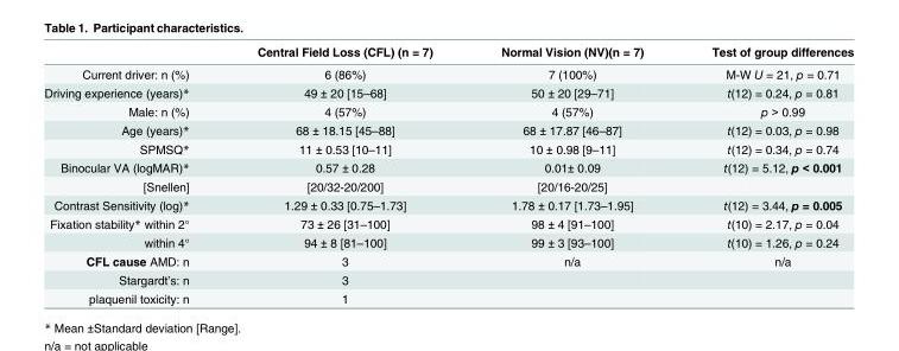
<table><thead><tr><td></td><td>Central Field Loss (CFL) (n = 7)</td><td>Normal Vision (NV)(n = 7)</td><td>Test of group differences</td></tr></thead><tbody><tr><td>Current driver: n (%)</td><td>6 (86%)</td><td>7 (100%)</td><td>M-W U = 21, p = 0.71</td></tr><tr><td>Driving experience (years)*</td><td>49 ± 20 [15–68]</td><td>50 ± 20 [29–71]</td><td>t(12) = 0.24, p = 0.81</td></tr><tr><td>Male: n (%)</td><td>4 (57%)</td><td>4 (57%)</td><td>p &gt; 0.99</td></tr><tr><td>Age (years)*</td><td>68 ± 18.15 [45–88]</td><td>68 ± 17.87 [46–87]</td><td>t(12) = 0.03, p = 0.98</td></tr><tr><td>SPMSQ*</td><td>11 ± 0.53 [10–11]</td><td>10 ± 0.98 [9–11]</td><td>t(12) = 0.34, p = 0.74</td></tr><tr><td>Binocular VA (logMAR)*</td><td>0.57 ± 0.28</td><td>0.01± 0.09</td><td>t(12) = 5.12, p &lt; 0.001</td></tr><tr><td>[Snellen]</td><td>[20/32-20/200]</td><td>[20/16-20/25]</td><td></td></tr><tr><td>Contrast Sensitivity (log)*</td><td>1.29 ± 0.33 [0.75–1.73]</td><td>1.78 ± 0.17 [1.73–1.95]</td><td>t(12) = 3.44, p = 0.005</td></tr><tr><td>Fixation stability* within 2°</td><td>73 ± 26 [31–100]</td><td>98 ± 4 [91–100]</td><td>t(10) = 2.17, p = 0.04</td></tr><tr><td>within 4°</td><td>94 ± 8 [81–100]</td><td>99 ± 3 [93–100]</td><td>t(10) = 1.26, p = 0.24</td></tr><tr><td>CFL cause AMD: n</td><td>3</td><td>n/a</td><td>n/a</td></tr><tr><td>Stargardt’s: n</td><td>3</td><td></td><td></td></tr><tr><td>plaquenil toxicity: n</td><td>1</td><td></td><td></td></tr></tbody></table>